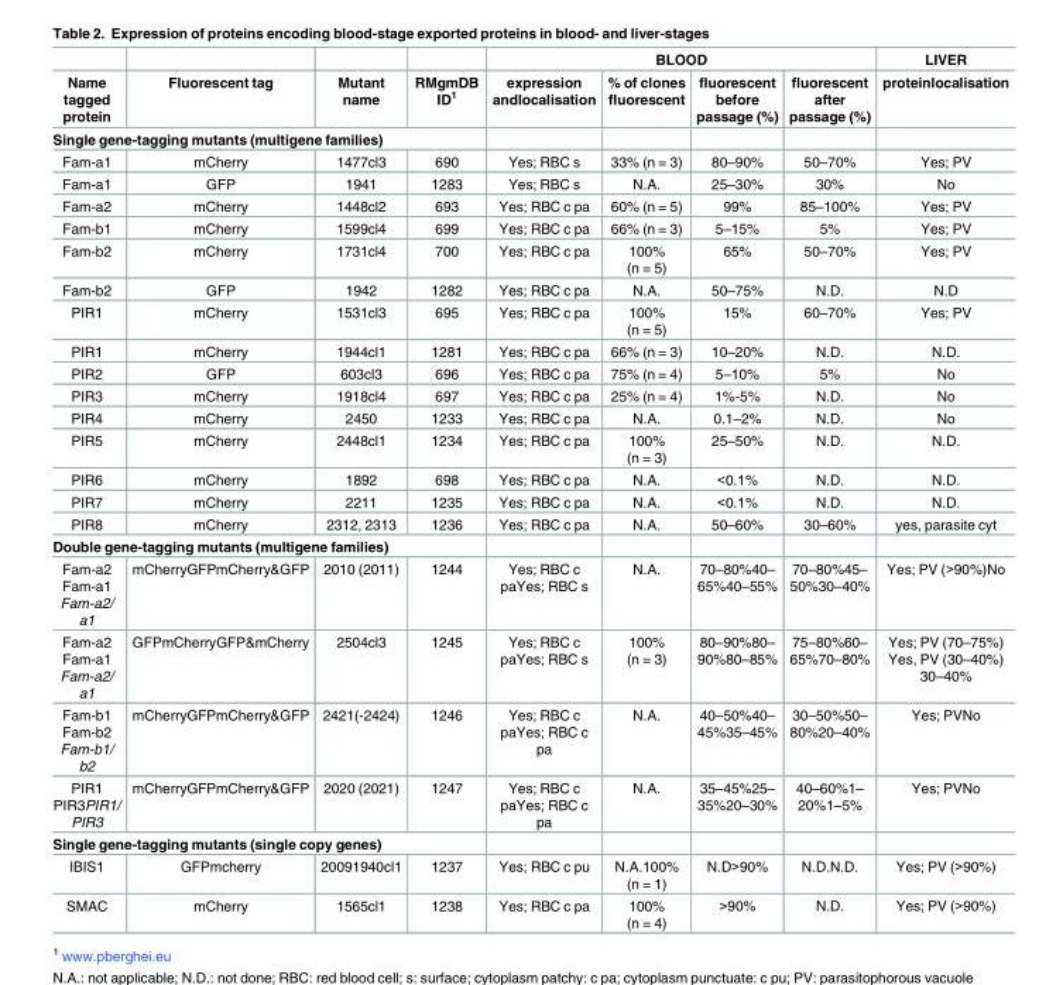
<table><thead><tr><td rowspan="2">Name tagged protein</td><td rowspan="2">Fluorescent tag</td><td rowspan="2">Mutant name</td><td rowspan="2">RMgmDB ID<sup>1</sup></td><td colspan="4">BLOOD</td><td rowspan="2">LIVER proteinlocalisation</td></tr><tr><td>expression andlocalisation</td><td>% of clones fluorescent</td><td>fluorescent before passage (%)</td><td>fluorescent after passage (%)</td></tr></thead><tbody><tr><td colspan="9">Single gene-tagging mutants (multigene families)</td></tr><tr><td>Fam-a1</td><td>mCherry</td><td>1477cl3</td><td>690</td><td>Yes; RBC s</td><td>33% (n = 3)</td><td>80–90%</td><td>50–70%</td><td>Yes; PV</td></tr><tr><td>Fam-a1</td><td>GFP</td><td>1941</td><td>1283</td><td>Yes; RBC s</td><td>N.A.</td><td>25–30%</td><td>30%</td><td>No</td></tr><tr><td>Fam-a2</td><td>mCherry</td><td>1448cl2</td><td>693</td><td>Yes; RBC c pa</td><td>60% (n = 5)</td><td>99%</td><td>85–100%</td><td>Yes; PV</td></tr><tr><td>Fam-b1</td><td>mCherry</td><td>1599cl4</td><td>699</td><td>Yes; RBC c pa</td><td>66% (n = 3)</td><td>5–15%</td><td>5%</td><td>Yes; PV</td></tr><tr><td>Fam-b2</td><td>mCherry</td><td>1731cl4</td><td>700</td><td>Yes; RBC c pa</td><td>100% (n = 5)</td><td>65%</td><td>50–70%</td><td>Yes; PV</td></tr><tr><td>Fam-b2</td><td>GFP</td><td>1942</td><td>1282</td><td>Yes; RBC c pa</td><td>N.A.</td><td>50–75%</td><td>N.D.</td><td>N.D</td></tr><tr><td>PIR1</td><td>mCherry</td><td>1531cl3</td><td>695</td><td>Yes; RBC c pa</td><td>100% (n = 5)</td><td>15%</td><td>60–70%</td><td>Yes; PV</td></tr><tr><td>PIR1</td><td>mCherry</td><td>1944cl1</td><td>1281</td><td>Yes; RBC c pa</td><td>66% (n = 3)</td><td>10–20%</td><td>N.D.</td><td>N.D.</td></tr><tr><td>PIR2</td><td>GFP</td><td>603cl3</td><td>696</td><td>Yes; RBC c pa</td><td>75% (n = 4)</td><td>5–10%</td><td>5%</td><td>No</td></tr><tr><td>PIR3</td><td>mCherry</td><td>1918cl4</td><td>697</td><td>Yes; RBC c pa</td><td>25% (n = 4)</td><td>1%-5%</td><td>N.D.</td><td>No</td></tr><tr><td>PIR4</td><td>mCherry</td><td>2450</td><td>1233</td><td>Yes; RBC c pa</td><td>N.A.</td><td>0.1–2%</td><td>N.D.</td><td>No</td></tr><tr><td>PIR5</td><td>mCherry</td><td>2448cl1</td><td>1234</td><td>Yes; RBC c pa</td><td>100% (n = 3)</td><td>25–50%</td><td>N.D.</td><td>N.D.</td></tr><tr><td>PIR6</td><td>mCherry</td><td>1892</td><td>698</td><td>Yes; RBC c pa</td><td>N.A.</td><td>&lt;0.1%</td><td>N.D.</td><td>N.D.</td></tr><tr><td>PIR7</td><td>mCherry</td><td>2211</td><td>1235</td><td>Yes; RBC c pa</td><td>N.A.</td><td>&lt;0.1%</td><td>N.D.</td><td>N.D.</td></tr><tr><td>PIR8</td><td>mCherry</td><td>2312, 2313</td><td>1236</td><td>Yes; RBC c pa</td><td>N.A.</td><td>50–60%</td><td>30–60%</td><td>yes, parasite cyt</td></tr><tr><td colspan="9">Double gene-tagging mutants (multigene families)</td></tr><tr><td>Fam-a2 Fam-a1 Fam-a2/ a1</td><td>mCherryGFPmCherry&amp;GFP</td><td>2010 (2011)</td><td>1244</td><td>Yes; RBC c paYes; RBC s</td><td>N.A.</td><td>70–80%40– 65%40–55%</td><td>70–80%45– 50%30–40%</td><td>Yes; PV (&gt;90%)No</td></tr><tr><td>Fam-a2 Fam-a1 Fam-a2/ a1</td><td>GFPmCherryGFP&amp;mCherry</td><td>2504cl3</td><td>1245</td><td>Yes; RBC c paYes; RBC s</td><td>100% (n = 3)</td><td>80–90%80– 90%80–85%</td><td>75–80%60– 65%70–80%</td><td>Yes; PV (70–75%) Yes, PV (30–40%) 30–40%</td></tr><tr><td>Fam-b1 Fam-b2 Fam-b1/ b2</td><td>mCherryGFPmCherry&amp;GFP</td><td>2421(-2424)</td><td>1246</td><td>Yes; RBC c paYes; RBC c pa</td><td>N.A.</td><td>40–50%40– 45%35–45%</td><td>30–50%50– 80%20–40%</td><td>Yes; PVNo</td></tr><tr><td>PIR1 PIR3PIR1/ PIR3</td><td>mCherryGFPmCherry&amp;GFP</td><td>2020 (2021)</td><td>1247</td><td>Yes; RBC c paYes; RBC c pa</td><td>N.A.</td><td>35–45%25– 35%20–30%</td><td>40–60%1– 20%1–5%</td><td>Yes; PVNo</td></tr><tr><td colspan="9">Single gene-tagging mutants (single copy genes)</td></tr><tr><td>IBIS1</td><td>GFPmcherry</td><td>20091940cl1</td><td>1237</td><td>Yes; RBC c pu</td><td>N.A.100% (n = 1)</td><td>N.D&gt;90%</td><td>N.D.N.D.</td><td>Yes; PV (&gt;90%)</td></tr><tr><td>SMAC</td><td>mCherry</td><td>1565cl1</td><td>1238</td><td>Yes; RBC c pa</td><td>100% (n = 4)</td><td>&gt;90%</td><td>N.D.</td><td>Yes; PV (&gt;90%)</td></tr></tbody></table>